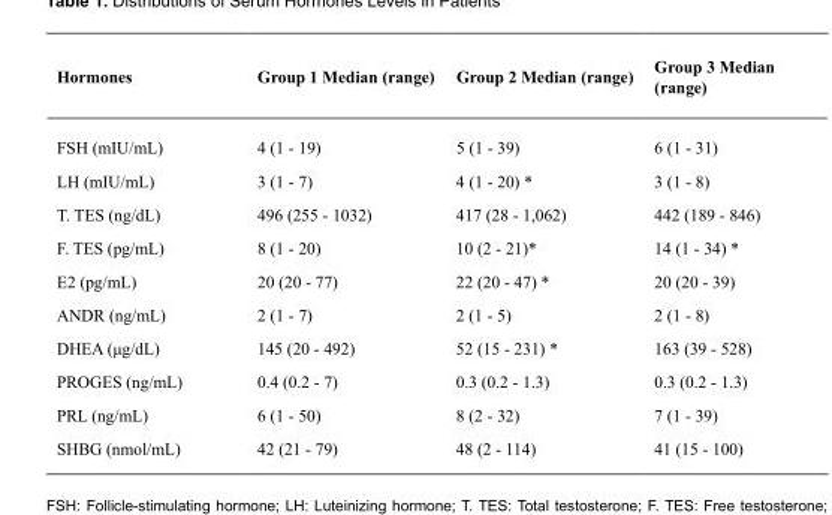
<table><thead><tr><td>Hormones</td><td>Group 1 Median (range)</td><td>Group 2 Median (range)</td><td>Group 3 Median (range)</td></tr></thead><tbody><tr><td>FSH (mIU/mL)</td><td>4 (1 - 19)</td><td>5 (1 - 39)</td><td>6 (1 - 31)</td></tr><tr><td>LH (mIU/mL)</td><td>3 (1 - 7)</td><td>4 (1 - 20) *</td><td>3 (1 - 8)</td></tr><tr><td>T. TES (ng/dL)</td><td>496 (255 - 1032)</td><td>417 (28 - 1,062)</td><td>442 (189 - 846)</td></tr><tr><td>F. TES (pg/mL)</td><td>8 (1 - 20)</td><td>10 (2 - 21)*</td><td>14 (1 - 34) *</td></tr><tr><td>E2 (pg/mL)</td><td>20 (20 - 77)</td><td>22 (20 - 47) *</td><td>20 (20 - 39)</td></tr><tr><td>ANDR (ng/mL)</td><td>2 (1 - 7)</td><td>2 (1 - 5)</td><td>2 (1 - 8)</td></tr><tr><td>DHEA (μg/dL)</td><td>145 (20 - 492)</td><td>52 (15 - 231) *</td><td>163 (39 - 528)</td></tr><tr><td>PROGES (ng/mL)</td><td>0.4 (0.2 - 7)</td><td>0.3 (0.2 - 1.3)</td><td>0.3 (0.2 - 1.3)</td></tr><tr><td>PRL (ng/mL)</td><td>6 (1 - 50)</td><td>8 (2 - 32)</td><td>7 (1 - 39)</td></tr><tr><td>SHBG (nmol/mL)</td><td>42 (21 - 79)</td><td>48 (2 - 114)</td><td>41 (15 - 100)</td></tr></tbody></table>